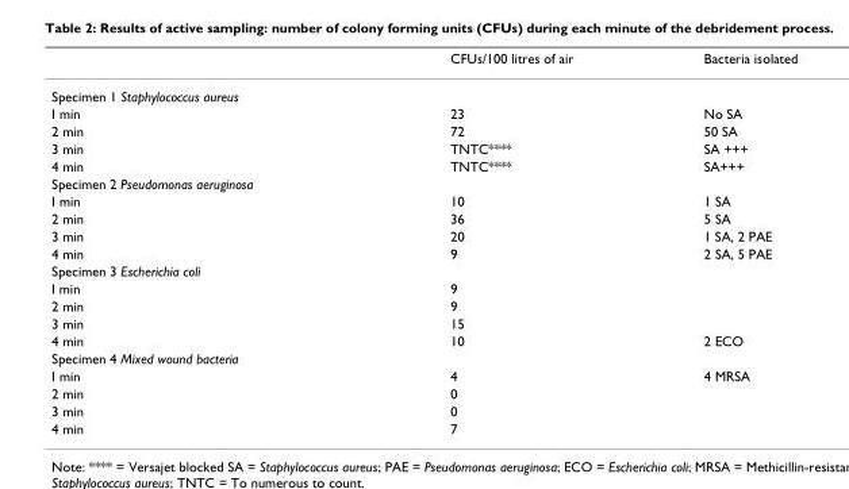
<table><thead><tr><td></td><td>CFUs/100 litres of air</td><td>Bacteria isolated</td></tr></thead><tbody><tr><td colspan="3">Specimen 1 Staphylococcus aureus</td></tr><tr><td>I min</td><td>23</td><td>No SA</td></tr><tr><td>2 min</td><td>72</td><td>50 SA</td></tr><tr><td>3 min</td><td>TNTC****</td><td>SA +++</td></tr><tr><td>4 min</td><td>TNTC****</td><td>SA+++</td></tr><tr><td colspan="3">Specimen 2 Pseudomonas aeruginosa</td></tr><tr><td>I min</td><td>10</td><td>1 SA</td></tr><tr><td>2 min</td><td>36</td><td>5 SA</td></tr><tr><td>3 min</td><td>20</td><td>1 SA, 2 PAE</td></tr><tr><td>4 min</td><td>9</td><td>2 SA, 5 PAE</td></tr><tr><td colspan="3">Specimen 3 Escherichia coli</td></tr><tr><td>I min</td><td>9</td><td></td></tr><tr><td>2 min</td><td>9</td><td></td></tr><tr><td>3 min</td><td>15</td><td></td></tr><tr><td>4 min</td><td>10</td><td>2 ECO</td></tr><tr><td colspan="3">Specimen 4 Mixed wound bacteria</td></tr><tr><td>I min</td><td>4</td><td>4 MRSA</td></tr><tr><td>2 min</td><td>0</td><td></td></tr><tr><td>3 min</td><td>0</td><td></td></tr><tr><td>4 min</td><td>7</td><td></td></tr></tbody></table>